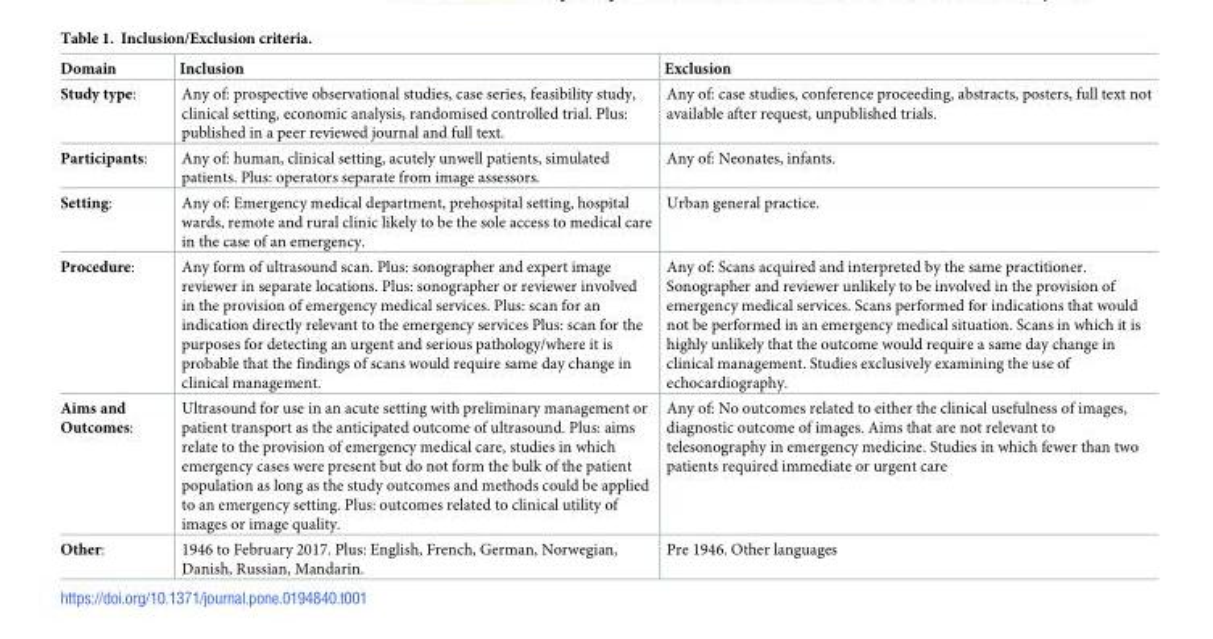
<table><thead><tr><td>Domain</td><td>Inclusion</td><td>Exclusion</td></tr></thead><tbody><tr><td>Study type:</td><td>Any of: prospective observational studies, case series, feasibility study, clinical setting, economic analysis, randomised controlled trial. Plus: published in a peer reviewed journal and full text.</td><td>Any of: case studies, conference proceeding, abstracts, posters, full text not available after request, unpublished trials.</td></tr><tr><td>Participants:</td><td>Any of: human, clinical setting, acutely unwell patients, simulated patients. Plus: operators separate from image assessors.</td><td>Any of: Neonates, infants.</td></tr><tr><td>Setting:</td><td>Any of: Emergency medical department, prehospital setting, hospital wards, remote and rural clinic likely to be the sole access to medical care in the case of an emergency.</td><td>Urban general practice.</td></tr><tr><td>Procedure:</td><td>Any form of ultrasound scan. Plus: sonographer and expert image reviewer in separate locations. Plus: sonographer or reviewer involved in the provision of emergency medical services. Plus: scan for an indication directly relevant to the emergency services Plus: scan for the purposes for detecting an urgent and serious pathology/where it is probable that the findings of scans would require same day change in clinical management.</td><td>Any of: Scans acquired and interpreted by the same practitioner. Sonographer and reviewer unlikely to be involved in the provision of emergency medical services. Scans performed for indications that would not be performed in an emergency medical situation. Scans in which it is highly unlikely that the outcome would require a same day change in clinical management. Studies exclusively examining the use of echocardiography.</td></tr><tr><td>Aims and Outcomes:</td><td>Ultrasound for use in an acute setting with preliminary management or patient transport as the anticipated outcome of ultrasound. Plus: aims relate to the provision of emergency medical care, studies in which emergency cases were present but do not form the bulk of the patient population as long as the study outcomes and methods could be applied to an emergency setting. Plus: outcomes related to clinical utility of images or image quality.</td><td>Any of: No outcomes related to either the clinical usefulness of images, diagnostic outcome of images. Aims that are not relevant to telesonography in emergency medicine. Studies in which fewer than two patients required immediate or urgent care</td></tr><tr><td>Other:</td><td>1946 to February 2017. Plus: English, French, German, Norwegian, Danish, Russian, Mandarin.</td><td>Pre 1946. Other languages</td></tr></tbody></table>